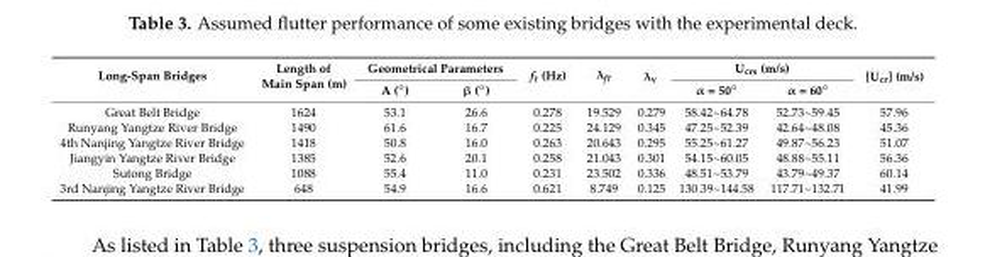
<table><thead><tr><td rowspan="2">Long-Span Bridges</td><td rowspan="2">Length of Main Span (m)</td><td colspan="2">Geometrical Parameters</td><td rowspan="2">f<sub>t</sub> (Hz)</td><td rowspan="2">λ<sub>ft</sub></td><td rowspan="2">λ<sub>v</sub></td><td colspan="2">U<sub>crs</sub> (m/s)</td><td rowspan="2">[U<sub>cr</sub>] (m/s)</td></tr><tr><td>A (◦)</td><td>β (◦)</td><td>α = 50◦</td><td>α = 60◦</td></tr></thead><tbody><tr><td>Great Belt Bridge</td><td>1624</td><td>53.1</td><td>26.6</td><td>0.278</td><td>19.529</td><td>0.279</td><td>58.42~64.78</td><td>52.73~59.45</td><td>57.96</td></tr><tr><td>Runyang Yangtze River Bridge</td><td>1490</td><td>61.6</td><td>16.7</td><td>0.225</td><td>24.129</td><td>0.345</td><td>47.25~52.39</td><td>42.64~48.08</td><td>45.36</td></tr><tr><td>4th Nanjing Yangtze River Bridge</td><td>1418</td><td>50.8</td><td>16.0</td><td>0.263</td><td>20.643</td><td>0.295</td><td>55.25~61.27</td><td>49.87~56.23</td><td>51.07</td></tr><tr><td>Jiangyin Yangtze River Bridge</td><td>1385</td><td>52.6</td><td>20.1</td><td>0.258</td><td>21.043</td><td>0.301</td><td>54.15~60.05</td><td>48.88~55.11</td><td>56.36</td></tr><tr><td>Sutong Bridge</td><td>1088</td><td>55.4</td><td>11.0</td><td>0.231</td><td>23.502</td><td>0.336</td><td>48.51~53.79</td><td>43.79~49.37</td><td>60.14</td></tr><tr><td>3rd Nanjing Yangtze River Bridge</td><td>648</td><td>54.9</td><td>16.6</td><td>0.621</td><td>8.749</td><td>0.125</td><td>130.39~144.58</td><td>117.71~132.71</td><td>41.99</td></tr></tbody></table>